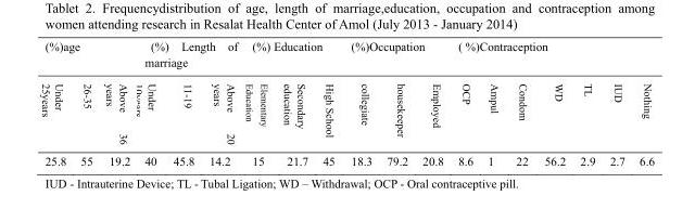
<table><thead><tr><td colspan="3">(%)age</td><td colspan="3">(%) Length of marriage</td><td colspan="3">(%) Education</td><td colspan="3">(%)Occupation</td><td colspan="7">( %)Contraception</td></tr><tr><td>Under 25years</td><td>26-35</td><td>Above 36 years</td><td>Under 10years</td><td>11-19</td><td>Above 20 years</td><td>Elementary Education</td><td>Secondary education</td><td>High School</td><td>collegiate</td><td>housekeeper</td><td>Employed</td><td>OCP</td><td>Ampul</td><td>Condom</td><td>WD</td><td>TL</td><td>IUD</td><td>Nothing</td></tr></thead><tbody><tr><td>25.8</td><td>55</td><td>19.2</td><td>40</td><td>45.8</td><td>14.2</td><td>15</td><td>21.7</td><td>45</td><td>18.3</td><td>79.2</td><td>20.8</td><td>8.6</td><td>1</td><td>22</td><td>56.2</td><td>2.9</td><td>2.7</td><td>6.6</td></tr></tbody></table>